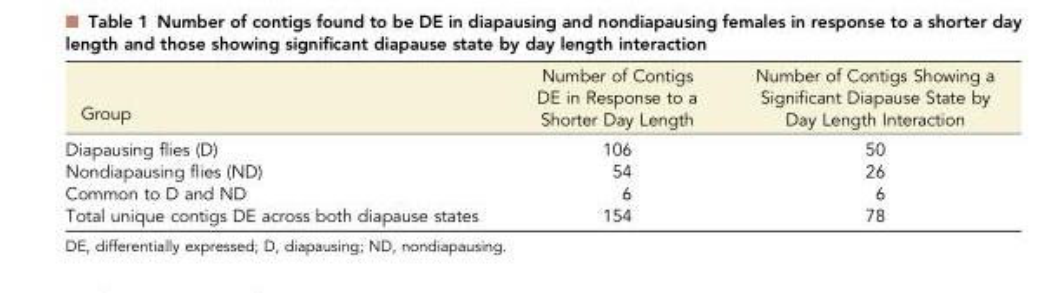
<table><thead><tr><td>Group</td><td>Number of Contigs DE in Response to a Shorter Day Length</td><td>Number of Contigs Showing a Significant Diapause State by Day Length Interaction</td></tr></thead><tbody><tr><td>Diapausing flies (D)</td><td>106</td><td>50</td></tr><tr><td>Nondiapausing flies (ND)</td><td>54</td><td>26</td></tr><tr><td>Common to D and ND</td><td>6</td><td>6</td></tr><tr><td>Total unique contigs DE across both diapause states</td><td>154</td><td>78</td></tr></tbody></table>